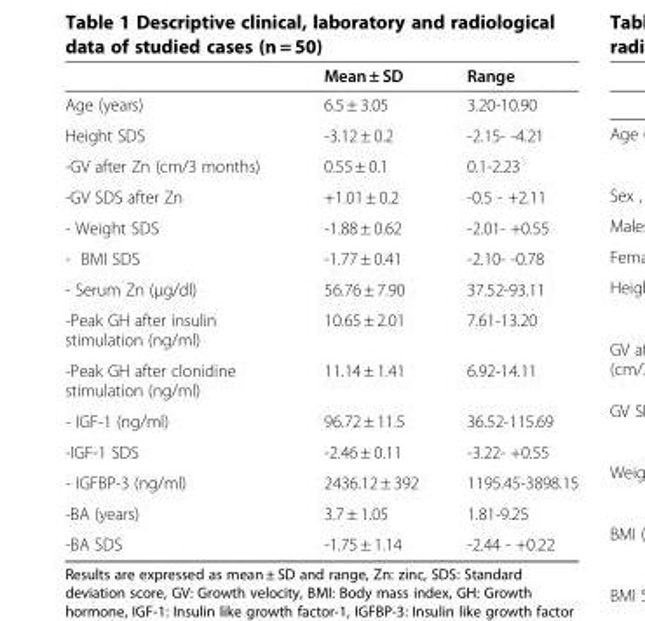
<table><thead><tr><td></td><td>Mean ± SD</td><td>Range</td></tr></thead><tbody><tr><td>Age (years)</td><td>6.5 ± 3.05</td><td>3.20-10.90</td></tr><tr><td>Height SDS</td><td>-3.12 ± 0.2</td><td>-2.15- -4.21</td></tr><tr><td>-GV after Zn (cm/3 months)</td><td>0.55 ± 0.1</td><td>0.1-2.23</td></tr><tr><td>-GV SDS after Zn</td><td>+1.01 ± 0.2</td><td>-0.5 - +2.11</td></tr><tr><td>- Weight SDS</td><td>-1.88 ± 0.62</td><td>-2.01- +0.55</td></tr><tr><td>- BMI SDS</td><td>-1.77 ± 0.41</td><td>-2.10- -0.78</td></tr><tr><td>- Serum Zn (μg/dl)</td><td>56.76 ± 7.90</td><td>37.52-93.11</td></tr><tr><td>-Peak GH after insulin stimulation (ng/ml)</td><td>10.65 ± 2.01</td><td>7.61-13.20</td></tr><tr><td>-Peak GH after clonidine stimulation (ng/ml)</td><td>11.14 ± 1.41</td><td>6.92-14.11</td></tr><tr><td>- IGF-1 (ng/ml)</td><td>96.72 ± 11.5</td><td>36.52-115.69</td></tr><tr><td>-IGF-1 SDS</td><td>-2.46 ± 0.11</td><td>-3.22- +0.55</td></tr><tr><td>- IGFBP-3 (ng/ml)</td><td>2436.12 ± 392</td><td>1195.45-3898.15</td></tr><tr><td>-BA (years)</td><td>3.7 ± 1.05</td><td>1.81-9.25</td></tr><tr><td>-BA SDS</td><td>-1.75 ± 1.14</td><td>-2.44 - +0.22</td></tr></tbody></table>